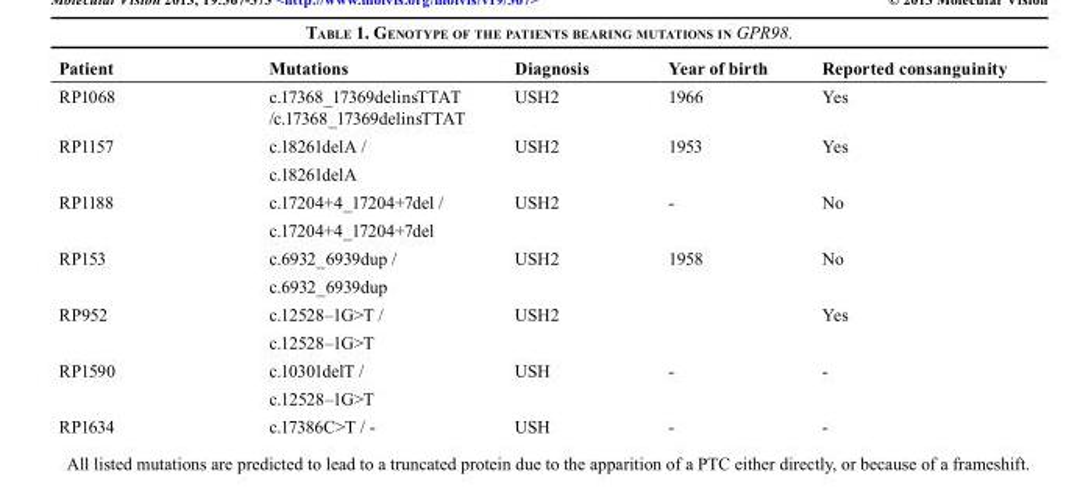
<table><thead><tr><td>Patient</td><td>Mutations</td><td>Diagnosis</td><td>Year of birth</td><td>Reported consanguinity</td></tr></thead><tbody><tr><td>RP1068</td><td>c.17368_17369delinsTTAT /c.17368_17369delinsTTAT</td><td>USH2</td><td>1966</td><td>Yes</td></tr><tr><td rowspan="2">RP1157</td><td>c.18261delA /</td><td rowspan="2">USH2</td><td rowspan="2">1953</td><td rowspan="2">Yes</td></tr><tr><td>c.18261delA</td></tr><tr><td rowspan="2">RP1188</td><td>c.17204+4_17204+7del /</td><td rowspan="2">USH2</td><td rowspan="2">-</td><td rowspan="2">No</td></tr><tr><td>c.17204+4_17204+7del</td></tr><tr><td rowspan="2">RP153</td><td>c.6932_6939dup /</td><td rowspan="2">USH2</td><td rowspan="2">1958</td><td rowspan="2">No</td></tr><tr><td>c.6932_6939dup</td></tr><tr><td rowspan="2">RP952</td><td>c.12528–1G&gt;T /</td><td rowspan="2">USH2</td><td rowspan="2"></td><td rowspan="2">Yes</td></tr><tr><td>c.12528–1G&gt;T</td></tr><tr><td rowspan="2">RP1590</td><td>c.10301delT /</td><td rowspan="2">USH</td><td rowspan="2">-</td><td rowspan="2">-</td></tr><tr><td>c.12528–1G&gt;T</td></tr><tr><td>RP1634</td><td>c.17386C&gt;T / -</td><td>USH</td><td>-</td><td>-</td></tr></tbody></table>